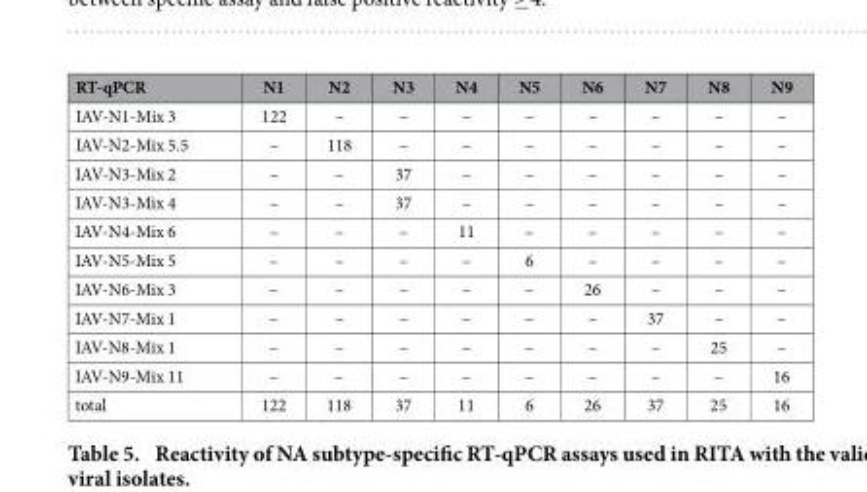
<table><thead><tr><td>RT-qPCR</td><td>N1</td><td>N2</td><td>N3</td><td>N4</td><td>N5</td><td>N6</td><td>N7</td><td>N8</td><td>N9</td></tr></thead><tbody><tr><td>IAV-N1-Mix 3</td><td>122</td><td>–</td><td>–</td><td>–</td><td>–</td><td>–</td><td>–</td><td>–</td><td>–</td></tr><tr><td>IAV-N2-Mix 5.5</td><td>–</td><td>118</td><td>–</td><td>–</td><td>–</td><td>–</td><td>–</td><td>–</td><td>–</td></tr><tr><td>IAV-N3-Mix 2</td><td>–</td><td>–</td><td>37</td><td>–</td><td>–</td><td>–</td><td>–</td><td>–</td><td>–</td></tr><tr><td>IAV-N3-Mix 4</td><td>–</td><td>–</td><td>37</td><td>–</td><td>–</td><td>–</td><td>–</td><td>–</td><td>–</td></tr><tr><td>IAV-N4-Mix 6</td><td>–</td><td>–</td><td>–</td><td>11</td><td>–</td><td>–</td><td>–</td><td>–</td><td>–</td></tr><tr><td>IAV-N5-Mix 5</td><td>–</td><td>–</td><td>–</td><td>–</td><td>6</td><td>–</td><td>–</td><td>–</td><td>–</td></tr><tr><td>IAV-N6-Mix 3</td><td>–</td><td>–</td><td>–</td><td>–</td><td>–</td><td>26</td><td>–</td><td>–</td><td>–</td></tr><tr><td>IAV-N7-Mix 1</td><td>–</td><td>–</td><td>–</td><td>–</td><td>–</td><td>–</td><td>37</td><td>–</td><td>–</td></tr><tr><td>IAV-N8-Mix 1</td><td>–</td><td>–</td><td>–</td><td>–</td><td>–</td><td>–</td><td>–</td><td>25</td><td>–</td></tr><tr><td>IAV-N9-Mix 11</td><td>–</td><td>–</td><td>–</td><td>–</td><td>–</td><td>–</td><td>–</td><td>–</td><td>16</td></tr><tr><td>total</td><td>122</td><td>118</td><td>37</td><td>11</td><td>6</td><td>26</td><td>37</td><td>25</td><td>16</td></tr></tbody></table>